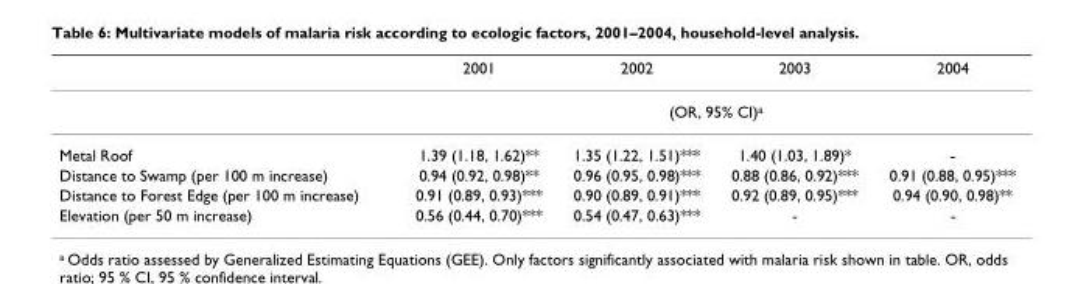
<table><thead><tr><td></td><td>2001</td><td>2002</td><td>2003</td><td>2004</td></tr></thead><tbody><tr><td></td><td colspan="4">(OR, 95% CI)<sup>a</sup></td></tr><tr><td>Metal Roof</td><td>1.39 (1.18, 1.62)**</td><td>1.35 (1.22, 1.51)***</td><td>1.40 (1.03, 1.89)*</td><td>-</td></tr><tr><td>Distance to Swamp (per 100 m increase)</td><td>0.94 (0.92, 0.98)**</td><td>0.96 (0.95, 0.98)***</td><td>0.88 (0.86, 0.92)***</td><td>0.91 (0.88, 0.95)***</td></tr><tr><td>Distance to Forest Edge (per 100 m increase)</td><td>0.91 (0.89, 0.93)***</td><td>0.90 (0.89, 0.91)***</td><td>0.92 (0.89, 0.95)***</td><td>0.94 (0.90, 0.98)**</td></tr><tr><td>Elevation (per 50 m increase)</td><td>0.56 (0.44, 0.70)***</td><td>0.54 (0.47, 0.63)***</td><td>-</td><td>-</td></tr></tbody></table>